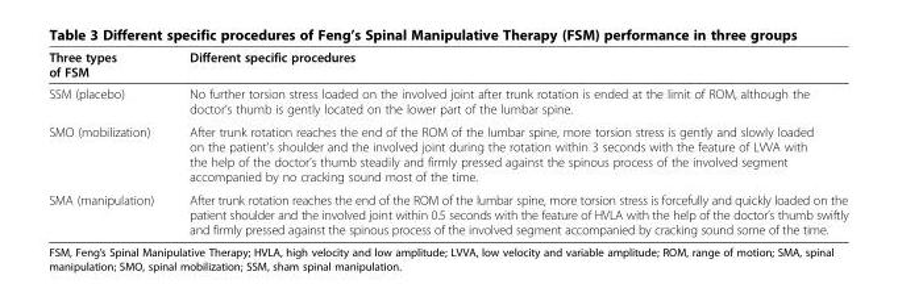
<table><thead><tr><td>Three types of FSM</td><td>Different specific procedures</td></tr></thead><tbody><tr><td>SSM (placebo)</td><td>No further torsion stress loaded on the involved joint after trunk rotation is ended at the limit of ROM, although the doctor’s thumb is gently located on the lower part of the lumbar spine.</td></tr><tr><td>SMO (mobilization)</td><td>After trunk rotation reaches the end of the ROM of the lumbar spine, more torsion stress is gently and slowly loaded on the patient’s shoulder and the involved joint during the rotation within 3 seconds with the feature of LVVA with the help of the doctor’s thumb steadily and firmly pressed against the spinous process of the involved segment accompanied by no cracking sound most of the time.</td></tr><tr><td>SMA (manipulation)</td><td>After trunk rotation reaches the end of the ROM of the lumbar spine, more torsion stress is forcefully and quickly loaded on the patient shoulder and the involved joint within 0.5 seconds with the feature of HVLA with the help of the doctor’s thumb swiftly and firmly pressed against the spinous process of the involved segment accompanied by cracking sound some of the time.</td></tr></tbody></table>